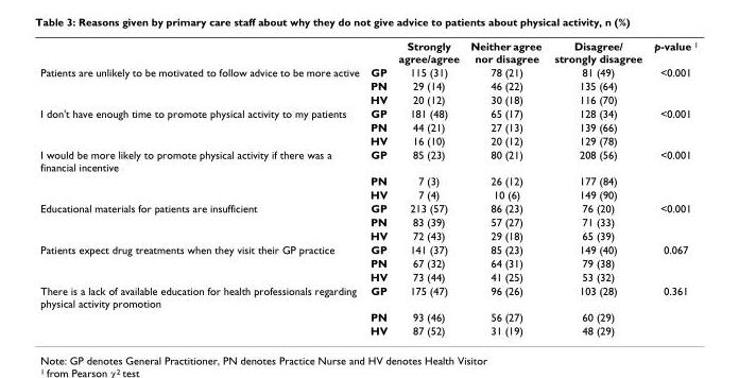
<table><thead><tr><td></td><td></td><td>Strongly agree/agree</td><td>Neither agree nor disagree</td><td>Disagree/ strongly disagree</td><td>p-value 1</td></tr></thead><tbody><tr><td rowspan="3">Patients are unlikely to be motivated to follow advice to be more active</td><td>GP</td><td>115 (31)</td><td>78 (21)</td><td>81 (49)</td><td>&lt;0.001</td></tr><tr><td>PN</td><td>29 (14)</td><td>46 (22)</td><td>135 (64)</td><td></td></tr><tr><td>HV</td><td>20 (12)</td><td>30 (18)</td><td>116 (70)</td><td></td></tr><tr><td rowspan="3">I don&#x27;t have enough time to promote physical activity to my patients</td><td>GP</td><td>181 (48)</td><td>65 (17)</td><td>128 (34)</td><td>&lt;0.001</td></tr><tr><td>PN</td><td>44 (21)</td><td>27 (13)</td><td>139 (66)</td><td></td></tr><tr><td>HV</td><td>16 (10)</td><td>20 (12)</td><td>129 (78)</td><td></td></tr><tr><td rowspan="3">I would be more likely to promote physical activity if there was a financial incentive</td><td>GP</td><td>85 (23)</td><td>80 (21)</td><td>208 (56)</td><td>&lt;0.001</td></tr><tr><td>PN</td><td>7 (3)</td><td>26 (12)</td><td>177 (84)</td><td></td></tr><tr><td>HV</td><td>7 (4)</td><td>10 (6)</td><td>149 (90)</td><td></td></tr><tr><td rowspan="3">Educational materials for patients are insufficient</td><td>GP</td><td>213 (57)</td><td>86 (23)</td><td>76 (20)</td><td>&lt;0.001</td></tr><tr><td>PN</td><td>83 (39)</td><td>57 (27)</td><td>71 (33)</td><td></td></tr><tr><td>HV</td><td>72 (43)</td><td>29 (18)</td><td>65 (39)</td><td></td></tr><tr><td rowspan="3">Patients expect drug treatments when they visit their GP practice</td><td>GP</td><td>141 (37)</td><td>85 (23)</td><td>149 (40)</td><td>0.067</td></tr><tr><td>PN</td><td>67 (32)</td><td>64 (31)</td><td>79 (38)</td><td></td></tr><tr><td>HV</td><td>73 (44)</td><td>41 (25)</td><td>53 (32)</td><td></td></tr><tr><td rowspan="3">There is a lack of available education for health professionals regarding physical activity promotion</td><td>GP</td><td>175 (47)</td><td>96 (26)</td><td>103 (28)</td><td>0.361</td></tr><tr><td>PN</td><td>93 (46)</td><td>56 (27)</td><td>60 (29)</td><td></td></tr><tr><td>HV</td><td>87 (52)</td><td>31 (19)</td><td>48 (29)</td><td></td></tr></tbody></table>